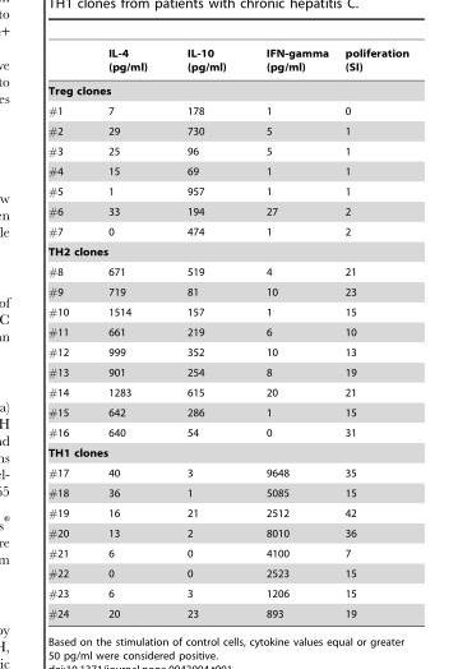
<table><thead><tr><td></td><td>IL-4 (pg/ml)</td><td>IL-10 (pg/ml)</td><td>IFN-gamma (pg/ml)</td><td>poliferation (SI)</td></tr></thead><tbody><tr><td colspan="5">Treg clones</td></tr><tr><td>#1</td><td>7</td><td>178</td><td>1</td><td>0</td></tr><tr><td>#2</td><td>29</td><td>730</td><td>5</td><td>1</td></tr><tr><td>#3</td><td>25</td><td>96</td><td>5</td><td>1</td></tr><tr><td>#4</td><td>15</td><td>69</td><td>1</td><td>1</td></tr><tr><td>#5</td><td>1</td><td>957</td><td>1</td><td>1</td></tr><tr><td>#6</td><td>33</td><td>194</td><td>27</td><td>2</td></tr><tr><td>#7</td><td>0</td><td>474</td><td>1</td><td>2</td></tr><tr><td colspan="5">TH2 clones</td></tr><tr><td>#8</td><td>671</td><td>519</td><td>4</td><td>21</td></tr><tr><td>#9</td><td>719</td><td>81</td><td>10</td><td>23</td></tr><tr><td>#10</td><td>1514</td><td>157</td><td>1</td><td>15</td></tr><tr><td>#11</td><td>661</td><td>219</td><td>6</td><td>10</td></tr><tr><td>#12</td><td>999</td><td>352</td><td>10</td><td>13</td></tr><tr><td>#13</td><td>901</td><td>254</td><td>8</td><td>19</td></tr><tr><td>#14</td><td>1283</td><td>615</td><td>20</td><td>21</td></tr><tr><td>#15</td><td>642</td><td>286</td><td>1</td><td>15</td></tr><tr><td>#16</td><td>640</td><td>54</td><td>0</td><td>31</td></tr><tr><td colspan="5">TH1 clones</td></tr><tr><td>#17</td><td>40</td><td>3</td><td>9648</td><td>35</td></tr><tr><td>#18</td><td>36</td><td>1</td><td>5085</td><td>15</td></tr><tr><td>#19</td><td>16</td><td>21</td><td>2512</td><td>42</td></tr><tr><td>#20</td><td>13</td><td>2</td><td>8010</td><td>36</td></tr><tr><td>#21</td><td>6</td><td>0</td><td>4100</td><td>7</td></tr><tr><td>#22</td><td>0</td><td>0</td><td>2523</td><td>15</td></tr><tr><td>#23</td><td>6</td><td>3</td><td>1206</td><td>15</td></tr><tr><td>#24</td><td>20</td><td>23</td><td>893</td><td>19</td></tr></tbody></table>